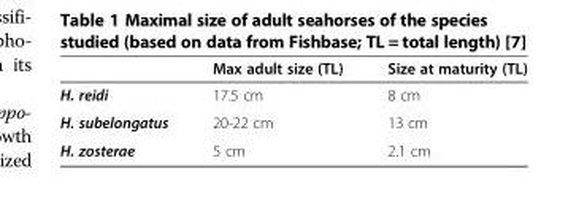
<table><thead><tr><td></td><td>Max adult size (TL)</td><td>Size at maturity (TL)</td></tr></thead><tbody><tr><td>H. reidi</td><td>17.5 cm</td><td>8 cm</td></tr><tr><td>H. subelongatus</td><td>20-22 cm</td><td>13 cm</td></tr><tr><td>H. zosterae</td><td>5 cm</td><td>2.1 cm</td></tr></tbody></table>